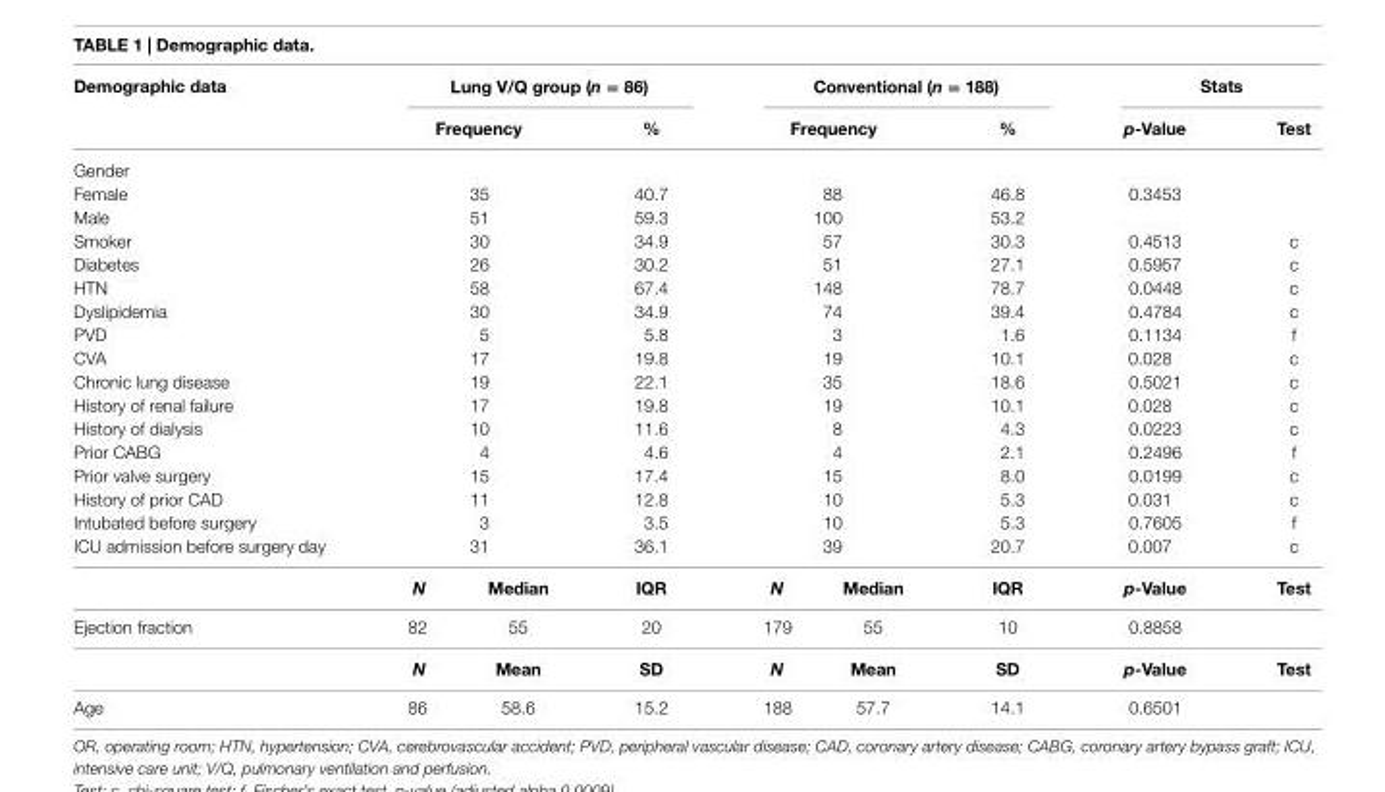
<table><thead><tr><td rowspan="2">Demographic data</td><td colspan="3">lung V/Q group (n = 86)</td><td colspan="3">conventional (n = 188)</td><td colspan="2">stats</td></tr><tr><td colspan="2">Frequency</td><td>%</td><td colspan="2">Frequency</td><td>%</td><td>p-Value</td><td>Test</td></tr></thead><tbody><tr><td colspan="9">Gender</td></tr><tr><td>Female</td><td colspan="2">35</td><td>40.7</td><td colspan="2">88</td><td>46.8</td><td>0.3453</td><td></td></tr><tr><td>Male</td><td colspan="2">51</td><td>59.3</td><td colspan="2">100</td><td>53.2</td><td></td><td></td></tr><tr><td>Smoker</td><td colspan="2">30</td><td>34.9</td><td colspan="2">57</td><td>30.3</td><td>0.4513</td><td>c</td></tr><tr><td>Diabetes</td><td colspan="2">26</td><td>30.2</td><td colspan="2">51</td><td>27.1</td><td>0.5957</td><td>c</td></tr><tr><td>HTN</td><td colspan="2">58</td><td>67.4</td><td colspan="2">148</td><td>78.7</td><td>0.0448</td><td>c</td></tr><tr><td>Dyslipidemia</td><td colspan="2">30</td><td>34.9</td><td colspan="2">74</td><td>39.4</td><td>0.4784</td><td>c</td></tr><tr><td>PVD</td><td colspan="2">5</td><td>5.8</td><td colspan="2">3</td><td>1.6</td><td>0.1134</td><td>f</td></tr><tr><td>CVA</td><td colspan="2">17</td><td>19.8</td><td colspan="2">19</td><td>10.1</td><td>0.028</td><td>c</td></tr><tr><td>Chronic lung disease</td><td colspan="2">19</td><td>22.1</td><td colspan="2">35</td><td>18.6</td><td>0.5021</td><td>c</td></tr><tr><td>History of renal failure</td><td colspan="2">17</td><td>19.8</td><td colspan="2">19</td><td>10.1</td><td>0.028</td><td>c</td></tr><tr><td>History of dialysis</td><td colspan="2">10</td><td>11.6</td><td colspan="2">8</td><td>4.3</td><td>0.0223</td><td>c</td></tr><tr><td>Prior CABG</td><td colspan="2">4</td><td>4.6</td><td colspan="2">4</td><td>2.1</td><td>0.2496</td><td>f</td></tr><tr><td>Prior valve surgery</td><td colspan="2">15</td><td>17.4</td><td colspan="2">15</td><td>8.0</td><td>0.0199</td><td>c</td></tr><tr><td>History of prior CAD</td><td colspan="2">11</td><td>12.8</td><td colspan="2">10</td><td>5.3</td><td>0.031</td><td>c</td></tr><tr><td>Intubated before surgery</td><td colspan="2">3</td><td>3.5</td><td colspan="2">10</td><td>5.3</td><td>0.7605</td><td>f</td></tr><tr><td rowspan="2">ICU admission before surgery day</td><td colspan="2">31</td><td>36.1</td><td colspan="2">39</td><td>20.7</td><td>0.007</td><td>c</td></tr><tr><td>N</td><td>Median</td><td>iQr</td><td>N</td><td>Median</td><td>iQr</td><td>p-Value</td><td>Test</td></tr><tr><td rowspan="2">Ejection fraction</td><td>82</td><td>55</td><td>20</td><td>179</td><td>55</td><td>10</td><td>0.8858</td><td></td></tr><tr><td>N</td><td>Mean</td><td>sD</td><td>N</td><td>Mean</td><td>sD</td><td>p-Value</td><td>Test</td></tr><tr><td>Age</td><td>86</td><td>58.6</td><td>15.2</td><td>188</td><td>57.7</td><td>14.1</td><td>0.6501</td><td></td></tr></tbody></table>